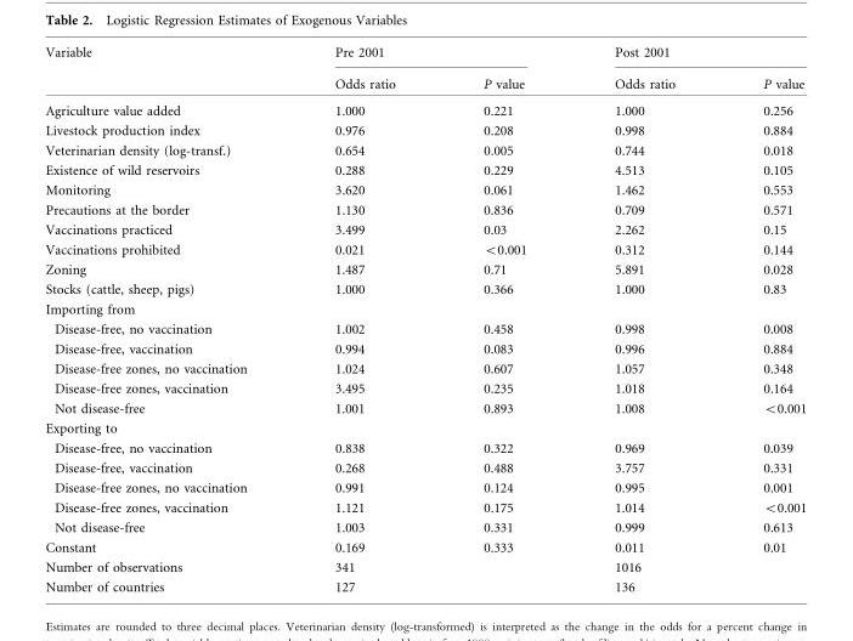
<table><thead><tr><td rowspan="2">Variable</td><td colspan="2">Pre 2001</td><td colspan="2">Post 2001</td></tr><tr><td>Odds ratio</td><td>P value</td><td>Odds ratio</td><td>P value</td></tr></thead><tbody><tr><td>Agriculture value added</td><td>1.000</td><td>0.221</td><td>1.000</td><td>0.256</td></tr><tr><td>Livestock production index</td><td>0.976</td><td>0.208</td><td>0.998</td><td>0.884</td></tr><tr><td>Veterinarian density (log-transf.)</td><td>0.654</td><td>0.005</td><td>0.744</td><td>0.018</td></tr><tr><td>Existence of wild reservoirs</td><td>0.288</td><td>0.229</td><td>4.513</td><td>0.105</td></tr><tr><td>Monitoring</td><td>3.620</td><td>0.061</td><td>1.462</td><td>0.553</td></tr><tr><td>Precautions at the border</td><td>1.130</td><td>0.836</td><td>0.709</td><td>0.571</td></tr><tr><td>Vaccinations practiced</td><td>3.499</td><td>0.03</td><td>2.262</td><td>0.15</td></tr><tr><td>Vaccinations prohibited</td><td>0.021</td><td>&lt;0.001</td><td>0.312</td><td>0.144</td></tr><tr><td>Zoning</td><td>1.487</td><td>0.71</td><td>5.891</td><td>0.028</td></tr><tr><td>Stocks (cattle, sheep, pigs)</td><td>1.000</td><td>0.366</td><td>1.000</td><td>0.83</td></tr><tr><td colspan="5">Importing from</td></tr><tr><td>Disease-free, no vaccination</td><td>1.002</td><td>0.458</td><td>0.998</td><td>0.008</td></tr><tr><td>Disease-free, vaccination</td><td>0.994</td><td>0.083</td><td>0.996</td><td>0.884</td></tr><tr><td>Disease-free zones, no vaccination</td><td>1.024</td><td>0.607</td><td>1.057</td><td>0.348</td></tr><tr><td>Disease-free zones, vaccination</td><td>3.495</td><td>0.235</td><td>1.018</td><td>0.164</td></tr><tr><td>Not disease-free</td><td>1.001</td><td>0.893</td><td>1.008</td><td>&lt;0.001</td></tr><tr><td colspan="5">Exporting to</td></tr><tr><td>Disease-free, no vaccination</td><td>0.838</td><td>0.322</td><td>0.969</td><td>0.039</td></tr><tr><td>Disease-free, vaccination</td><td>0.268</td><td>0.488</td><td>3.757</td><td>0.331</td></tr><tr><td>Disease-free zones, no vaccination</td><td>0.991</td><td>0.124</td><td>0.995</td><td>0.001</td></tr><tr><td>Disease-free zones, vaccination</td><td>1.121</td><td>0.175</td><td>1.014</td><td>&lt;0.001</td></tr><tr><td>Not disease-free</td><td>1.003</td><td>0.331</td><td>0.999</td><td>0.613</td></tr><tr><td>Constant</td><td>0.169</td><td>0.333</td><td>0.011</td><td>0.01</td></tr><tr><td>Number of observations</td><td>341</td><td></td><td>1016</td><td></td></tr><tr><td>Number of countries</td><td>127</td><td></td><td>136</td><td></td></tr></tbody></table>